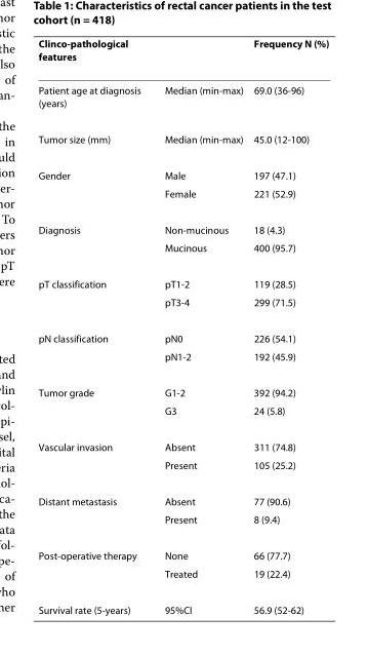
<table><thead><tr><td>Clinco-pathological features</td><td></td><td>Frequency N (%)</td></tr></thead><tbody><tr><td>Patient age at diagnosis (years)</td><td>Median (min-max)</td><td>69.0 (36-96)</td></tr><tr><td>Tumor size (mm)</td><td>Median (min-max)</td><td>45.0 (12-100)</td></tr><tr><td rowspan="2">Gender</td><td>Male</td><td>197 (47.1)</td></tr><tr><td>Female</td><td>221 (52.9)</td></tr><tr><td rowspan="2">Diagnosis</td><td>Non-mucinous</td><td>18 (4.3)</td></tr><tr><td>Mucinous</td><td>400 (95.7)</td></tr><tr><td rowspan="2">pT classification</td><td>pT1-2</td><td>119 (28.5)</td></tr><tr><td>pT3-4</td><td>299 (71.5)</td></tr><tr><td rowspan="2">pN classification</td><td>pN0</td><td>226 (54.1)</td></tr><tr><td>pN1-2</td><td>192 (45.9)</td></tr><tr><td rowspan="2">Tumor grade</td><td>G1-2</td><td>392 (94.2)</td></tr><tr><td>G3</td><td>24 (5.8)</td></tr><tr><td rowspan="2">Vascular invasion</td><td>Absent</td><td>311 (74.8)</td></tr><tr><td>Present</td><td>105 (25.2)</td></tr><tr><td rowspan="2">Distant metastasis</td><td>Absent</td><td>77 (90.6)</td></tr><tr><td>Present</td><td>8 (9.4)</td></tr><tr><td rowspan="2">Post-operative therapy</td><td>None</td><td>66 (77.7)</td></tr><tr><td>Treated</td><td>19 (22.4)</td></tr><tr><td>Survival rate (5-years)</td><td>95%CI</td><td>56.9 (52-62)</td></tr></tbody></table>